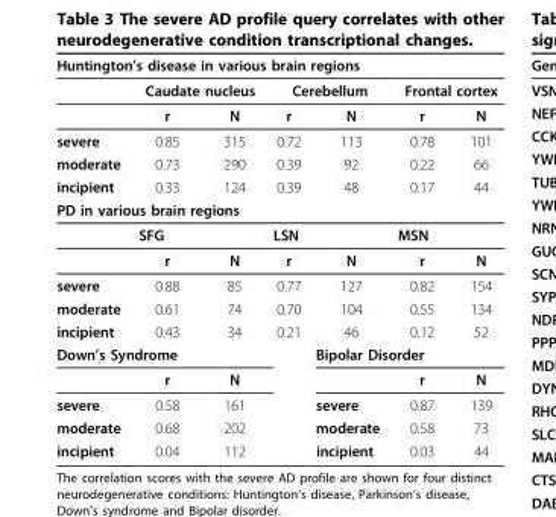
<table><thead><tr><td colspan="7">Huntington’s disease in various brain regions</td></tr><tr><td rowspan="2"></td><td colspan="2">Caudate nucleus</td><td colspan="2">Cerebellum</td><td colspan="2">Frontal cortex</td></tr><tr><td>r</td><td>N</td><td>r</td><td>N</td><td>r</td><td>N</td></tr></thead><tbody><tr><td>severe</td><td>0.85</td><td>315</td><td>0.72</td><td>113</td><td>0.78</td><td>101</td></tr><tr><td>moderate</td><td>0.73</td><td>290</td><td>0.39</td><td>92</td><td>0.22</td><td>66</td></tr><tr><td>incipient</td><td>0.33</td><td>124</td><td>0.39</td><td>48</td><td>0.17</td><td>44</td></tr><tr><td colspan="7">PD in various brain regions</td></tr><tr><td></td><td colspan="2">SFG</td><td colspan="2">LSN</td><td colspan="2">MSN</td></tr><tr><td></td><td>r</td><td>N</td><td>r</td><td>N</td><td>r</td><td>N</td></tr><tr><td>severe</td><td>0.88</td><td>85</td><td>0.77</td><td>127</td><td>0.82</td><td>154</td></tr><tr><td>moderate</td><td>0.61</td><td>74</td><td>0.70</td><td>104</td><td>0.55</td><td>134</td></tr><tr><td>incipient</td><td>0.43</td><td>34</td><td>0.21</td><td>46</td><td>0.12</td><td>52</td></tr><tr><td colspan="3">Down’s Syndrome</td><td></td><td colspan="3">Bipolar Disorder</td></tr><tr><td></td><td>r</td><td>N</td><td></td><td></td><td>r</td><td>N</td></tr><tr><td>severe</td><td>0.58</td><td>161</td><td></td><td>severe</td><td>0.87</td><td>139</td></tr><tr><td>moderate</td><td>0.68</td><td>202</td><td></td><td>moderate</td><td>0.58</td><td>73</td></tr><tr><td>incipient</td><td>0.04</td><td>112</td><td></td><td>incipient</td><td>0.03</td><td>44</td></tr></tbody></table>